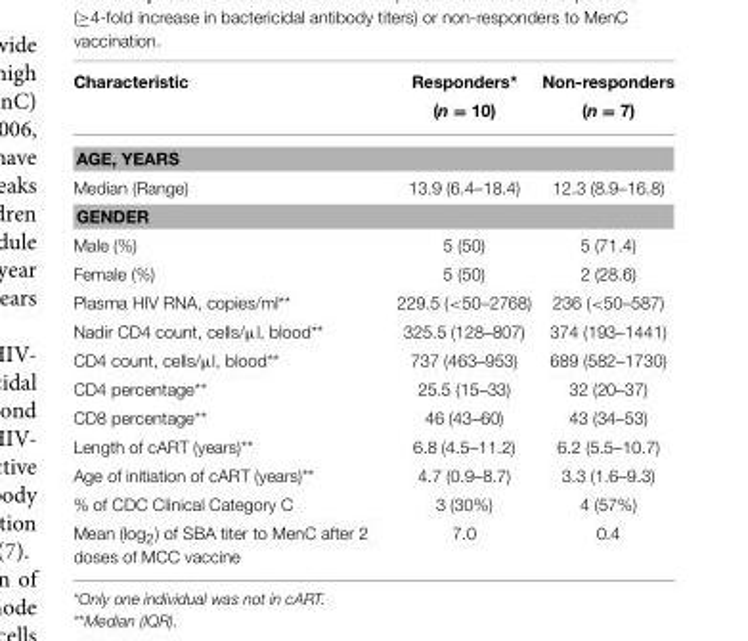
<table><thead><tr><td rowspan="2">Characteristic</td><td rowspan="2">Responders* (n = 10)</td><td rowspan="2">Non-responders (n = 7)</td></tr><tr></tr></thead><tbody><tr><td colspan="3">AGE, YEARS</td></tr><tr><td>Median (Range)</td><td>13.9 (6.4–18.4)</td><td>12.3 (8.9–16.8)</td></tr><tr><td colspan="3">GENDER</td></tr><tr><td>Male (%)</td><td>5 (50)</td><td>5 (71.4)</td></tr><tr><td>Female (%)</td><td>5 (50)</td><td>2 (28.6)</td></tr><tr><td>Plasma HIV RNA, copies/ml**</td><td>229.5 (&lt;50–2768)</td><td>236 (&lt;50–587)</td></tr><tr><td>Nadir CD4 count, cells/µl, blood**</td><td>325.5 (128–807)</td><td>374 (193–1441)</td></tr><tr><td>CD4 count, cells/µl, blood**</td><td>737 (463–953)</td><td>689 (582–1730)</td></tr><tr><td>CD4 percentage**</td><td>25.5 (15–33)</td><td>32 (20–37)</td></tr><tr><td>CD8 percentage**</td><td>46 (43–60)</td><td>43 (34–53)</td></tr><tr><td>Length of cART (years)**</td><td>6.8 (4.5–11.2)</td><td>6.2 (5.5–10.7)</td></tr><tr><td>Age of initiation of cART (years)**</td><td>4.7 (0.9–8.7)</td><td>3.3 (1.6–9.3)</td></tr><tr><td>% of CDC Clinical Category C</td><td>3 (30%)</td><td>4 (57%)</td></tr><tr><td>Mean (log<sub>2</sub>) of SBA titer to MenC after 2 doses of MCC vaccine</td><td>7.0</td><td>0.4</td></tr></tbody></table>